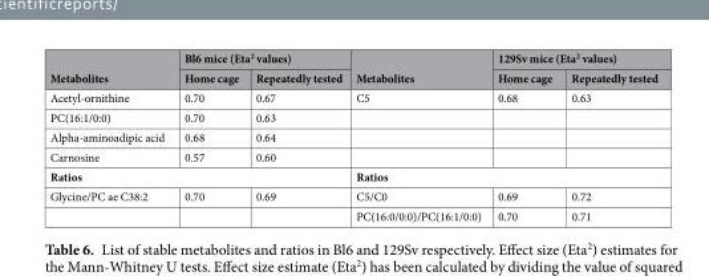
<table><thead><tr><td rowspan="2">Metabolites</td><td colspan="2">Bl6 mice (Eta<sup>2</sup> values)</td><td rowspan="2">Metabolites</td><td colspan="2">129Sv mice (Eta<sup>2</sup> values)</td></tr><tr><td>Home cage</td><td>Repeatedly tested</td><td>Home cage</td><td>Repeatedly tested</td></tr></thead><tbody><tr><td>Acetyl-ornithine</td><td>0.70</td><td>0.67</td><td>C5</td><td>0.68</td><td>0.63</td></tr><tr><td>PC(16:1/0:0)</td><td>0.70</td><td>0.63</td><td></td><td></td><td></td></tr><tr><td>Alpha-aminoadipic acid</td><td>0.68</td><td>0.64</td><td></td><td></td><td></td></tr><tr><td>Carnosine</td><td>0.57</td><td>0.60</td><td></td><td></td><td></td></tr><tr><td colspan="3">Ratios</td><td colspan="3">Ratios</td></tr><tr><td rowspan="2">Glycine/PC ae C38:2</td><td>0.70</td><td>0.69</td><td>C5/C0</td><td>0.69</td><td>0.72</td></tr><tr><td></td><td></td><td>PC(16:0/0:0)/PC(16:1/0:0)</td><td>0.70</td><td>0.71</td></tr></tbody></table>